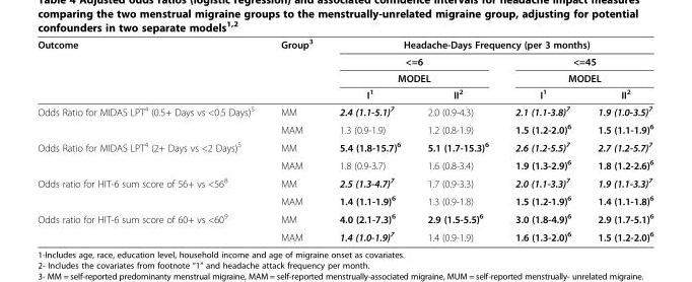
<table><thead><tr><td rowspan="4">Outcome</td><td rowspan="4">Group<sup>3</sup></td><td colspan="4">Headache-Days Frequency (per 3 months)</td></tr><tr><td rowspan="2" colspan="2">&lt;=6 MODEL</td><td rowspan="2" colspan="2">&lt;=45 MODEL</td></tr><tr></tr><tr><td>I<sup>1</sup></td><td>II<sup>2</sup></td><td>I<sup>1</sup></td><td>II<sup>2</sup></td></tr></thead><tbody><tr><td rowspan="2">Odds Ratio for MIDAS LPT<sup>4</sup> (0.5+ Days vs &lt;0.5 Days)<sup>5</sup></td><td>MM</td><td>2.4 (1.1-5.1)<sup>7</sup></td><td>2.0 (0.9-4.3)</td><td>2.1 (1.1-3.8)<sup>7</sup></td><td>1.9 (1.0-3.5)<sup>7</sup></td></tr><tr><td>MAM</td><td>1.3 (0.9-1.9)</td><td>1.2 (0.8-1.9)</td><td>1.5 (1.2-2.0)<sup>6</sup></td><td>1.5 (1.1-1.9)<sup>6</sup></td></tr><tr><td rowspan="2">Odds Ratio for MIDAS LPT<sup>4</sup> (2+ Days vs &lt;2 Days)<sup>5</sup></td><td>MM</td><td>5.4 (1.8-15.7)<sup>6</sup></td><td>5.1 (1.7-15.3)<sup>6</sup></td><td>2.6 (1.2-5.5)<sup>7</sup></td><td>2.7 (1.2-5.7)<sup>7</sup></td></tr><tr><td>MAM</td><td>1.8 (0.9-3.7)</td><td>1.6 (0.8-3.4)</td><td>1.9 (1.3-2.9)<sup>6</sup></td><td>1.8 (1.2-2.6)<sup>6</sup></td></tr><tr><td rowspan="2">Odds ratio for HIT-6 sum score of 56+ vs &lt;56<sup>8</sup></td><td>MM</td><td>2.5 (1.3-4.7)<sup>7</sup></td><td>1.7 (0.9-3.3)</td><td>2.0 (1.1-3.3)<sup>7</sup></td><td>1.9 (1.1-3.3)<sup>7</sup></td></tr><tr><td>MAM</td><td>1.4 (1.1-1.9)<sup>6</sup></td><td>1.3 (0.9-1.8)</td><td>1.5 (1.2-1.9)<sup>6</sup></td><td>1.4 (1.1-1.8)<sup>6</sup></td></tr><tr><td rowspan="2">Odds ratio for HIT-6 sum score of 60+ vs &lt;60<sup>9</sup></td><td>MM</td><td>4.0 (2.1-7.3)<sup>6</sup></td><td>2.9 (1.5-5.5)<sup>6</sup></td><td>3.0 (1.8-4.9)<sup>6</sup></td><td>2.9 (1.7-5.1)<sup>6</sup></td></tr><tr><td>MAM</td><td>1.4 (1.0-1.9)<sup>7</sup></td><td>1.4 (0.9-1.9)</td><td>1.6 (1.3-2.0)<sup>6</sup></td><td>1.5 (1.2-2.0)<sup>6</sup></td></tr></tbody></table>